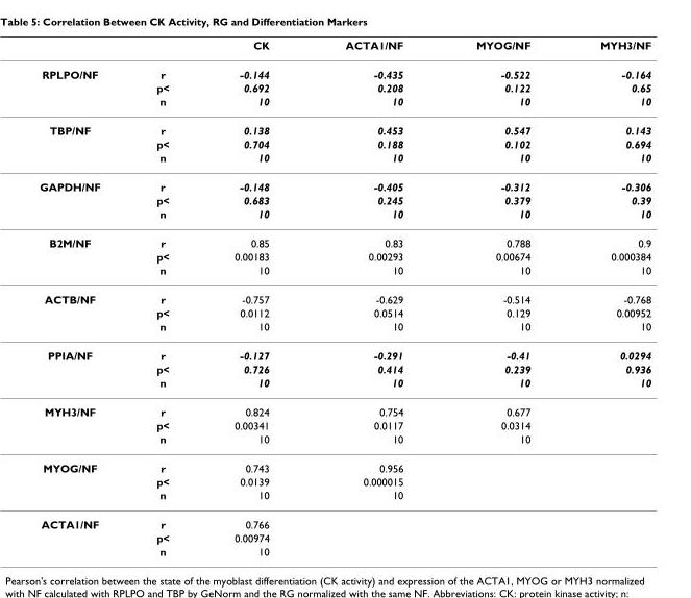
<table><thead><tr><td></td><td></td><td>CK</td><td>ACTA1/NF</td><td>MYOG/NF</td><td>MYH3/NF</td></tr></thead><tbody><tr><td rowspan="3">RPLPO/NF</td><td>r</td><td>-0.144</td><td>-0.435</td><td>-0.522</td><td>-0.164</td></tr><tr><td>p&lt;</td><td>0.692</td><td>0.208</td><td>0.122</td><td>0.65</td></tr><tr><td>n</td><td>10</td><td>10</td><td>10</td><td>10</td></tr><tr><td rowspan="3">TBP/NF</td><td>r</td><td>0.138</td><td>0.453</td><td>0.547</td><td>0.143</td></tr><tr><td>p&lt;</td><td>0.704</td><td>0.188</td><td>0.102</td><td>0.694</td></tr><tr><td>n</td><td>10</td><td>10</td><td>10</td><td>10</td></tr><tr><td rowspan="3">GAPDH/NF</td><td>r</td><td>-0.148</td><td>-0.405</td><td>-0.312</td><td>-0.306</td></tr><tr><td>p&lt;</td><td>0.683</td><td>0.245</td><td>0.379</td><td>0.39</td></tr><tr><td>n</td><td>10</td><td>10</td><td>10</td><td>10</td></tr><tr><td rowspan="3">B2M/NF</td><td>r</td><td>0.85</td><td>0.83</td><td>0.788</td><td>0.9</td></tr><tr><td>p&lt;</td><td>0.00183</td><td>0.00293</td><td>0.00674</td><td>0.000384</td></tr><tr><td>n</td><td>10</td><td>10</td><td>10</td><td>10</td></tr><tr><td rowspan="3">ACTB/NF</td><td>r</td><td>-0.757</td><td>-0.629</td><td>-0.514</td><td>-0.768</td></tr><tr><td>p&lt;</td><td>0.0112</td><td>0.0514</td><td>0.129</td><td>0.00952</td></tr><tr><td>n</td><td>10</td><td>10</td><td>10</td><td>10</td></tr><tr><td rowspan="3">PPIA/NF</td><td>r</td><td>-0.127</td><td>-0.291</td><td>-0.41</td><td>0.0294</td></tr><tr><td>p&lt;</td><td>0.726</td><td>0.414</td><td>0.239</td><td>0.936</td></tr><tr><td>n</td><td>10</td><td>10</td><td>10</td><td>10</td></tr><tr><td rowspan="3">MYH3/NF</td><td>r</td><td>0.824</td><td>0.754</td><td>0.677</td><td></td></tr><tr><td>p&lt;</td><td>0.00341</td><td>0.0117</td><td>0.0314</td><td></td></tr><tr><td>n</td><td>10</td><td>10</td><td>10</td><td></td></tr><tr><td rowspan="3">MYOG/NF</td><td>r</td><td>0.743</td><td>0.956</td><td></td><td></td></tr><tr><td>p&lt;</td><td>0.0139</td><td>0.000015</td><td></td><td></td></tr><tr><td>n</td><td>10</td><td>10</td><td></td><td></td></tr><tr><td rowspan="3">ACTA1/NF</td><td>r</td><td>0.766</td><td></td><td></td><td></td></tr><tr><td>p&lt;</td><td>0.00974</td><td></td><td></td><td></td></tr><tr><td>n</td><td>10</td><td></td><td></td><td></td></tr></tbody></table>